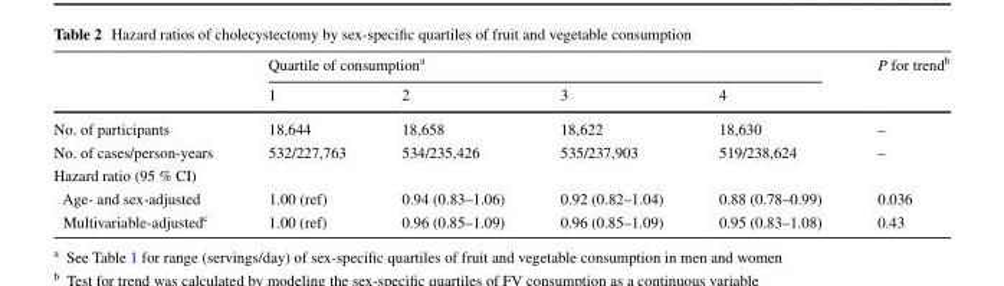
<table><thead><tr><td rowspan="2"></td><td colspan="4">Quartile of consumption<sup>a</sup></td><td rowspan="2">P for trend<sup>b</sup></td></tr><tr><td>1</td><td>2</td><td>3</td><td>4</td></tr></thead><tbody><tr><td>No. of participants</td><td>18,644</td><td>18,658</td><td>18,622</td><td>18,630</td><td>–</td></tr><tr><td>No. of cases/person-years</td><td>532/227,763</td><td>534/235,426</td><td>535/237,903</td><td>519/238,624</td><td>–</td></tr><tr><td colspan="6">Hazard ratio (95 % CI)</td></tr><tr><td>Age- and sex-adjusted</td><td>1.00 (ref)</td><td>0.94 (0.83–1.06)</td><td>0.92 (0.82–1.04)</td><td>0.88 (0.78–0.99)</td><td>0.036</td></tr><tr><td>Multivariable-adjusted<sup>c</sup></td><td>1.00 (ref)</td><td>0.96 (0.85–1.09)</td><td>0.96 (0.85–1.09)</td><td>0.95 (0.83–1.08)</td><td>0.43</td></tr></tbody></table>